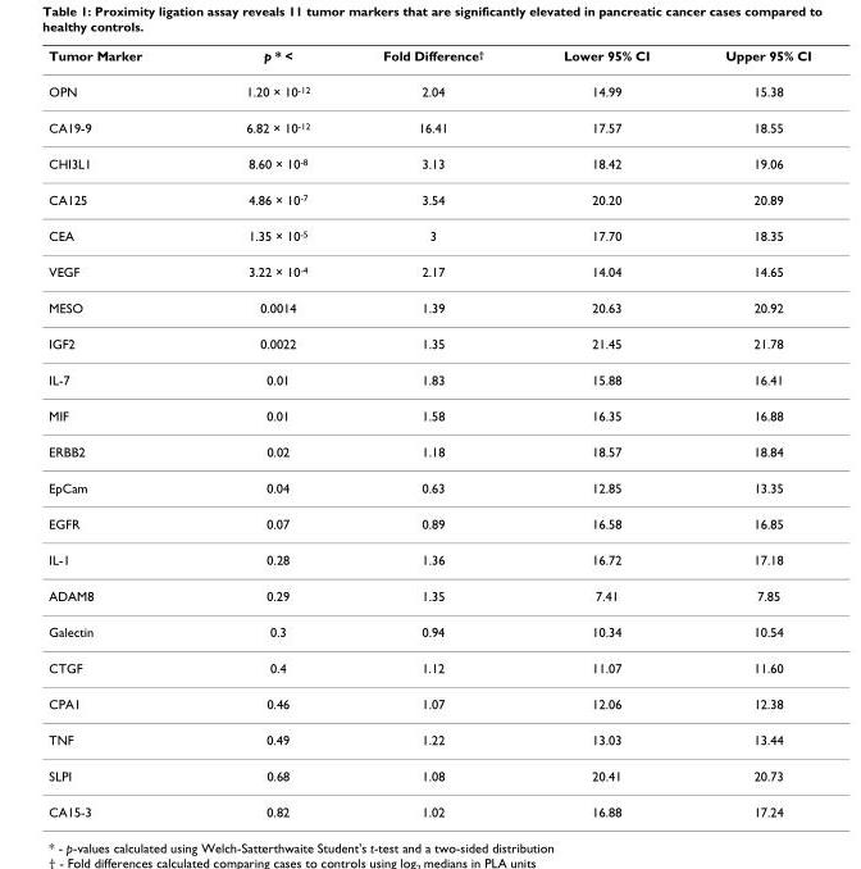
<table><thead><tr><td>Tumor Marker</td><td>p * &lt;</td><td>Fold Difference<sup>†</sup></td><td>Lower 95% CI</td><td>Upper 95% CI</td></tr></thead><tbody><tr><td>OPN</td><td>1.20 × 10<sup>-12</sup></td><td>2.04</td><td>14.99</td><td>15.38</td></tr><tr><td>CA19-9</td><td>6.82 × 10<sup>-12</sup></td><td>16.41</td><td>17.57</td><td>18.55</td></tr><tr><td>CHI3L1</td><td>8.60 × 10<sup>-8</sup></td><td>3.13</td><td>18.42</td><td>19.06</td></tr><tr><td>CA125</td><td>4.86 × 10<sup>-7</sup></td><td>3.54</td><td>20.20</td><td>20.89</td></tr><tr><td>CEA</td><td>1.35 × 10<sup>-5</sup></td><td>3</td><td>17.70</td><td>18.35</td></tr><tr><td>VEGF</td><td>3.22 × 10<sup>-4</sup></td><td>2.17</td><td>14.04</td><td>14.65</td></tr><tr><td>MESO</td><td>0.0014</td><td>1.39</td><td>20.63</td><td>20.92</td></tr><tr><td>IGF2</td><td>0.0022</td><td>1.35</td><td>21.45</td><td>21.78</td></tr><tr><td>IL-7</td><td>0.01</td><td>1.83</td><td>15.88</td><td>16.41</td></tr><tr><td>MIF</td><td>0.01</td><td>1.58</td><td>16.35</td><td>16.88</td></tr><tr><td>ERBB2</td><td>0.02</td><td>1.18</td><td>18.57</td><td>18.84</td></tr><tr><td>EpCam</td><td>0.04</td><td>0.63</td><td>12.85</td><td>13.35</td></tr><tr><td>EGFR</td><td>0.07</td><td>0.89</td><td>16.58</td><td>16.85</td></tr><tr><td>IL-1</td><td>0.28</td><td>1.36</td><td>16.72</td><td>17.18</td></tr><tr><td>ADAM8</td><td>0.29</td><td>1.35</td><td>7.41</td><td>7.85</td></tr><tr><td>Galectin</td><td>0.3</td><td>0.94</td><td>10.34</td><td>10.54</td></tr><tr><td>CTGF</td><td>0.4</td><td>1.12</td><td>11.07</td><td>11.60</td></tr><tr><td>CPA1</td><td>0.46</td><td>1.07</td><td>12.06</td><td>12.38</td></tr><tr><td>TNF</td><td>0.49</td><td>1.22</td><td>13.03</td><td>13.44</td></tr><tr><td>SLPI</td><td>0.68</td><td>1.08</td><td>20.41</td><td>20.73</td></tr><tr><td>CA15-3</td><td>0.82</td><td>1.02</td><td>16.88</td><td>17.24</td></tr></tbody></table>